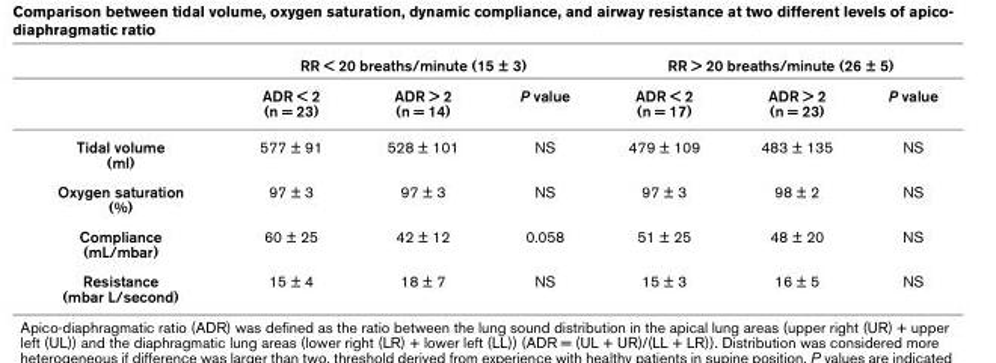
<table><thead><tr><td rowspan="2"></td><td colspan="3">RR &lt; 20 breaths/minute (15 ± 3)</td><td colspan="3">RR &gt; 20 breaths/minute (26 ± 5)</td></tr><tr><td>ADR &lt; 2 (n = 23)</td><td>ADR &gt; 2 (n = 14)</td><td>P value</td><td>ADR &lt; 2 (n = 17)</td><td>ADR &gt; 2 (n = 23)</td><td>P value</td></tr></thead><tbody><tr><td>Tidal volume (ml)</td><td>577 ± 91</td><td>528 ± 101</td><td>NS</td><td>479 ± 109</td><td>483 ± 135</td><td>NS</td></tr><tr><td>Oxygen saturation (%)</td><td>97 ± 3</td><td>97 ± 3</td><td>NS</td><td>97 ± 3</td><td>98 ± 2</td><td>NS</td></tr><tr><td>Compliance (mL/mbar)</td><td>60 ± 25</td><td>42 ± 12</td><td>0.058</td><td>51 ± 25</td><td>48 ± 20</td><td>NS</td></tr><tr><td>Resistance (mbar L/second)</td><td>15 ± 4</td><td>18 ± 7</td><td>NS</td><td>15 ± 3</td><td>16 ± 5</td><td>NS</td></tr></tbody></table>